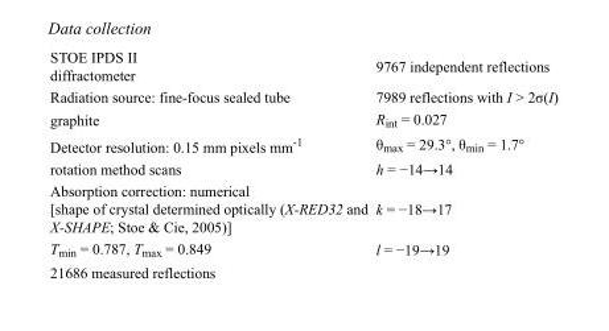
<table><tbody><tr><td>STOE IPDS II diffractometer</td><td>9767 independent reflections</td></tr><tr><td>Radiation source: fine-focus sealed tube</td><td>7989 reflections with I &gt; 2σ(I)</td></tr><tr><td>graphite</td><td>R<sub>int</sub> = 0.027</td></tr><tr><td>Detector resolution: 0.15 mm pixels mm<sup>-1</sup></td><td>θ<sub>max</sub> = 29.3°, θ<sub>min</sub> = 1.7°</td></tr><tr><td>rotation method scans</td><td>h = −14→14</td></tr><tr><td>Absorption correction: numerical [shape of crystal determined optically (X-RED32 and X-SHAPE; Stoe &amp; Cie, 2005)]</td><td>k = −18→17</td></tr><tr><td>T<sub>min</sub> = 0.787, T<sub>max</sub> = 0.849</td><td>l = −19→19</td></tr><tr><td>21686 measured reflections</td><td></td></tr></tbody></table>